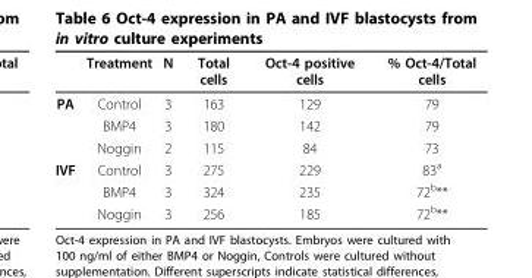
<table><thead><tr><td></td><td>Treatment</td><td>N</td><td>Total cells</td><td>Oct-4 positive cells</td><td>% Oct-4/Total cells</td></tr></thead><tbody><tr><td rowspan="3">PA</td><td>Control</td><td>3</td><td>163</td><td>129</td><td>79</td></tr><tr><td>BMP4</td><td>3</td><td>180</td><td>142</td><td>79</td></tr><tr><td>Noggin</td><td>2</td><td>115</td><td>84</td><td>73</td></tr><tr><td rowspan="3">IVF</td><td>Control</td><td>3</td><td>275</td><td>229</td><td>83<sup>a</sup></td></tr><tr><td>BMP4</td><td>3</td><td>324</td><td>235</td><td>72<sup>b</sup>**</td></tr><tr><td>Noggin</td><td>3</td><td>256</td><td>185</td><td>72<sup>b</sup>**</td></tr></tbody></table>